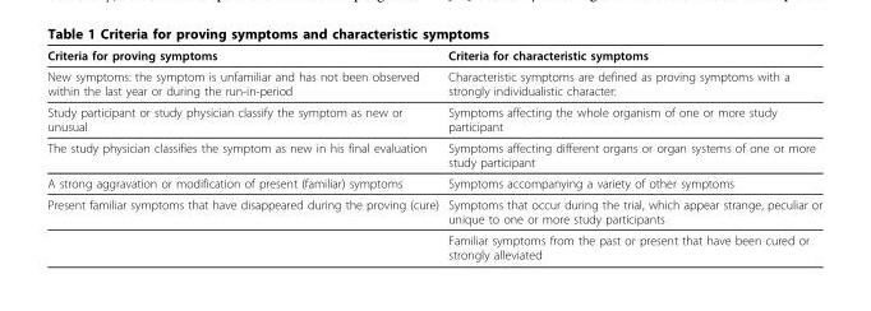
<table><thead><tr><td>Criteria for proving symptoms</td><td>Criteria for characteristic symptoms</td></tr></thead><tbody><tr><td>New symptoms: the symptom is unfamiliar and has not been observed within the last year or during the run-in-period</td><td>Characteristic symptoms are defined as proving symptoms with a strongly individualistic character:</td></tr><tr><td>Study participant or study physician classify the symptom as new or unusual</td><td>Symptoms affecting the whole organism of one or more study participant</td></tr><tr><td>The study physician classifies the symptom as new in his final evaluation</td><td>Symptoms affecting different organs or organ systems of one or more study participant</td></tr><tr><td>A strong aggravation or modification of present (familiar) symptoms</td><td>Symptoms accompanying a variety of other symptoms</td></tr><tr><td rowspan="2">Present familiar symptoms that have disappeared during the proving (cure)</td><td>Symptoms that occur during the trial, which appear strange, peculiar or unique to one or more study participants</td></tr><tr><td>Familiar symptoms from the past or present that have been cured or strongly alleviated</td></tr></tbody></table>